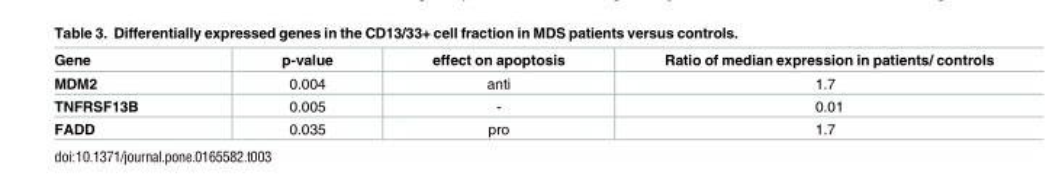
<table><thead><tr><td>Gene</td><td>p-value</td><td>effect on apoptosis</td><td>Ratio of median expression in patients/ controls</td></tr></thead><tbody><tr><td>MDM2</td><td>0.004</td><td>anti</td><td>1.7</td></tr><tr><td>TNFRSF13B</td><td>0.005</td><td>-</td><td>0.01</td></tr><tr><td>FADD</td><td>0.035</td><td>pro</td><td>1.7</td></tr></tbody></table>